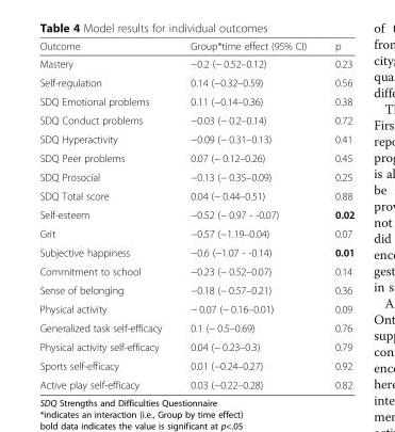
<table><thead><tr><td>Outcome</td><td>Group*time effect (95% CI)</td><td>p</td></tr></thead><tbody><tr><td>Mastery</td><td>−0.2 (− 0.52–0.12)</td><td>0.23</td></tr><tr><td>Self-regulation</td><td>0.14 (−0.32–0.59)</td><td>0.56</td></tr><tr><td>SDQ Emotional problems</td><td>0.11 (−0.14–0.36)</td><td>0.38</td></tr><tr><td>SDQ Conduct problems</td><td>−0.03 (− 0.2–0.14)</td><td>0.72</td></tr><tr><td>SDQ Hyperactivity</td><td>−0.09 (− 0.31–0.13)</td><td>0.41</td></tr><tr><td>SDQ Peer problems</td><td>0.07 (− 0.12–0.26)</td><td>0.45</td></tr><tr><td>SDQ Prosocial</td><td>−0.13 (− 0.35–0.09)</td><td>0.25</td></tr><tr><td>SDQ Total score</td><td>0.04 (− 0.44–0.51)</td><td>0.88</td></tr><tr><td>Self-esteem</td><td>−0.52 (− 0.97 - -0.07)</td><td>0.02</td></tr><tr><td>Grit</td><td>−0.57 (−1.19–0.04)</td><td>0.07</td></tr><tr><td>Subjective happiness</td><td>−0.6 (−1.07 - -0.14)</td><td>0.01</td></tr><tr><td>Commitment to school</td><td>−0.23 (− 0.52–0.07)</td><td>0.14</td></tr><tr><td>Sense of belonging</td><td>−0.18 (− 0.57–0.21)</td><td>0.36</td></tr><tr><td>Physical activity</td><td>− 0.07 (− 0.16–0.01)</td><td>0.09</td></tr><tr><td>Generalized task self-efficacy</td><td>0.1 (− 0.5–0.69)</td><td>0.76</td></tr><tr><td>Physical activity self-efficacy</td><td>0.04 (− 0.23–0.3)</td><td>0.79</td></tr><tr><td>Sports self-efficacy</td><td>0.01 (−0.24–0.27)</td><td>0.92</td></tr><tr><td>Active play self-efficacy</td><td>0.03 (−0.22–0.28)</td><td>0.82</td></tr></tbody></table>